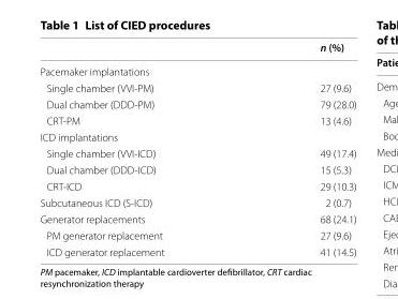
<table><thead><tr><td></td><td>n (%)</td></tr></thead><tbody><tr><td colspan="2">Pacemaker implantations</td></tr><tr><td>Single chamber (VVI-PM)</td><td>27 (9.6)</td></tr><tr><td>Dual chamber (DDD-PM)</td><td>79 (28.0)</td></tr><tr><td>CRT-PM</td><td>13 (4.6)</td></tr><tr><td colspan="2">ICD implantations</td></tr><tr><td>Single chamber (VVI-ICD)</td><td>49 (17.4)</td></tr><tr><td>Dual chamber (DDD-ICD)</td><td>15 (5.3)</td></tr><tr><td>CRT-ICD</td><td>29 (10.3)</td></tr><tr><td>Subcutaneous ICD (S-ICD)</td><td>2 (0.7)</td></tr><tr><td>Generator replacements</td><td>68 (24.1)</td></tr><tr><td>PM generator replacement</td><td>27 (9.6)</td></tr><tr><td>ICD generator replacement</td><td>41 (14.5)</td></tr></tbody></table>